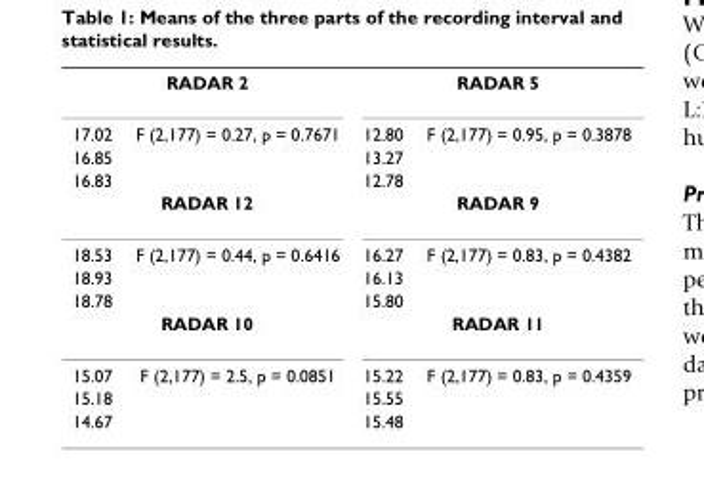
<table><tbody><tr><td colspan="2">RADAR 2</td><td colspan="2">RADAR 5</td></tr><tr><td>17.02</td><td>F (2,177) = 0.27, p = 0.7671</td><td>12.80</td><td>F (2,177) = 0.95, p = 0.3878</td></tr><tr><td>16.85</td><td></td><td>13.27</td><td></td></tr><tr><td>16.83</td><td></td><td>12.78</td><td></td></tr><tr><td colspan="2">RADAR 12</td><td colspan="2">RADAR 9</td></tr><tr><td>18.53</td><td>F (2,177) = 0.44, p = 0.6416</td><td>16.27</td><td>F (2,177) = 0.83, p = 0.4382</td></tr><tr><td>18.93</td><td></td><td>16.13</td><td></td></tr><tr><td>18.78</td><td></td><td>15.80</td><td></td></tr><tr><td colspan="2">RADAR 10</td><td colspan="2">RADAR 11</td></tr><tr><td>15.07</td><td>F (2,177) = 2.5, p = 0.0851</td><td>15.22</td><td>F (2,177) = 0.83, p = 0.4359</td></tr><tr><td>15.18</td><td></td><td>15.55</td><td></td></tr><tr><td>14.67</td><td></td><td>15.48</td><td></td></tr></tbody></table>